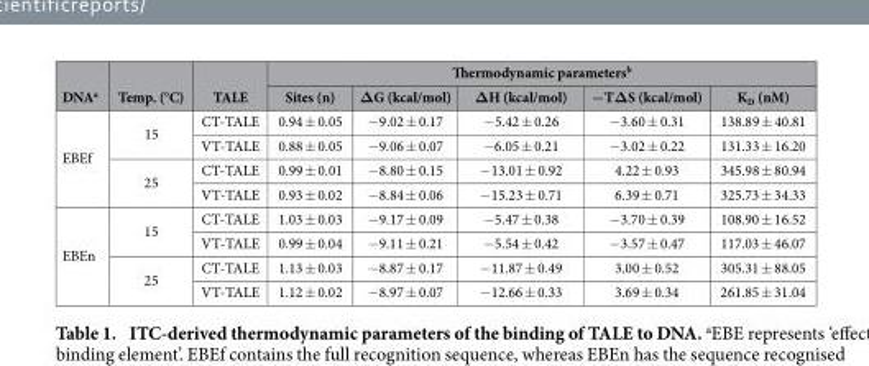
<table><thead><tr><td rowspan="2">DNA<sup>a</sup></td><td rowspan="2">Temp. (°C)</td><td rowspan="2">TALE</td><td colspan="5">Thermodynamic parameters<sup>b</sup></td></tr><tr><td>Sites (n)</td><td>ΔG (kcal/mol)</td><td>ΔH (kcal/mol)</td><td>−TΔS (kcal/mol)</td><td>K<sub>D</sub> (nM)</td></tr></thead><tbody><tr><td rowspan="4">EBEf</td><td rowspan="2">15</td><td>CT-TALE</td><td>0.94 ± 0.05</td><td>− 9.02 ± 0.17</td><td>− 5.42 ± 0.26</td><td>− 3.60 ± 0.31</td><td>138.89 ± 40.81</td></tr><tr><td>VT-TALE</td><td>0.88 ± 0.05</td><td>− 9.06 ± 0.07</td><td>− 6.05 ± 0.21</td><td>− 3.02 ± 0.22</td><td>131.33 ± 16.20</td></tr><tr><td rowspan="2">25</td><td>CT-TALE</td><td>0.99 ± 0.01</td><td>− 8.80 ± 0.15</td><td>− 13.01 ± 0.92</td><td>4.22 ± 0.93</td><td>345.98 ± 80.94</td></tr><tr><td>VT-TALE</td><td>0.93 ± 0.02</td><td>− 8.84 ± 0.06</td><td>− 15.23 ± 0.71</td><td>6.39 ± 0.71</td><td>325.73 ± 34.33</td></tr><tr><td rowspan="4">EBEn</td><td rowspan="2">15</td><td>CT-TALE</td><td>1.03 ± 0.03</td><td>− 9.17 ± 0.09</td><td>− 5.47 ± 0.38</td><td>− 3.70 ± 0.39</td><td>108.90 ± 16.52</td></tr><tr><td>VT-TALE</td><td>0.99 ± 0.04</td><td>− 9.11 ± 0.21</td><td>− 5.54 ± 0.42</td><td>− 3.57 ± 0.47</td><td>117.03 ± 46.07</td></tr><tr><td rowspan="2">25</td><td>CT-TALE</td><td>1.13 ± 0.03</td><td>− 8.87 ± 0.17</td><td>− 11.87 ± 0.49</td><td>3.00 ± 0.52</td><td>305.31 ± 88.05</td></tr><tr><td>VT-TALE</td><td>1.12 ± 0.02</td><td>− 8.97 ± 0.07</td><td>− 12.66 ± 0.33</td><td>3.69 ± 0.34</td><td>261.85 ± 31.04</td></tr></tbody></table>